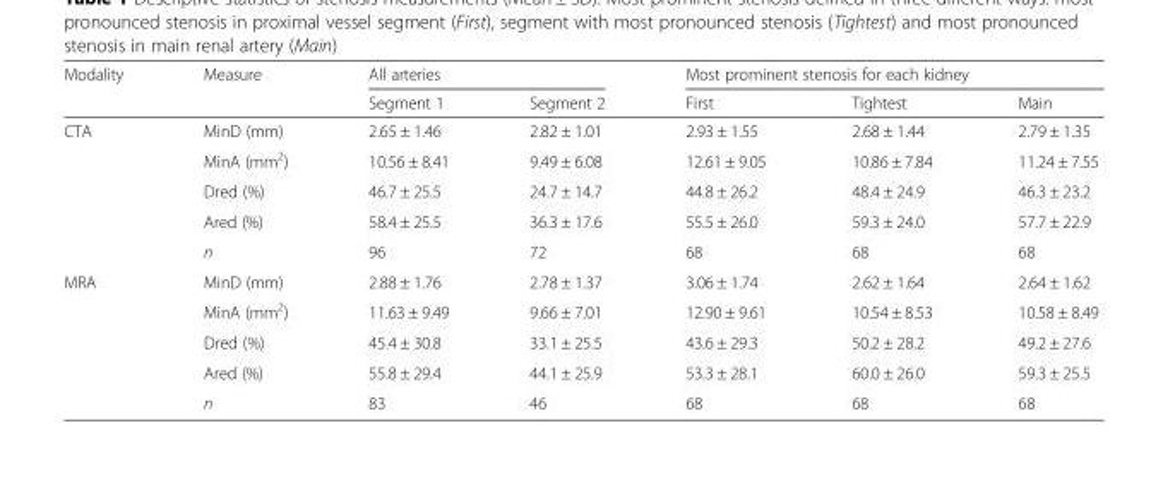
<table><thead><tr><td rowspan="2">Modality</td><td rowspan="2">Measure</td><td colspan="2">All arteries</td><td colspan="3">Most prominent stenosis for each kidney</td></tr><tr><td>Segment 1</td><td>Segment 2</td><td>First</td><td>Tightest</td><td>Main</td></tr></thead><tbody><tr><td rowspan="5">CTA</td><td>MinD (mm)</td><td>2.65 ± 1.46</td><td>2.82 ± 1.01</td><td>2.93 ± 1.55</td><td>2.68 ± 1.44</td><td>2.79 ± 1.35</td></tr><tr><td>MinA (mm<sup>2</sup>)</td><td>10.56 ± 8.41</td><td>9.49 ± 6.08</td><td>12.61 ± 9.05</td><td>10.86 ± 7.84</td><td>11.24 ± 7.55</td></tr><tr><td>Dred (%)</td><td>46.7 ± 25.5</td><td>24.7 ± 14.7</td><td>44.8 ± 26.2</td><td>48.4 ± 24.9</td><td>46.3 ± 23.2</td></tr><tr><td>Ared (%)</td><td>58.4 ± 25.5</td><td>36.3 ± 17.6</td><td>55.5 ± 26.0</td><td>59.3 ± 24.0</td><td>57.7 ± 22.9</td></tr><tr><td>n</td><td>96</td><td>72</td><td>68</td><td>68</td><td>68</td></tr><tr><td rowspan="5">MRA</td><td>MinD (mm)</td><td>2.88 ± 1.76</td><td>2.78 ± 1.37</td><td>3.06 ± 1.74</td><td>2.62 ± 1.64</td><td>2.64 ± 1.62</td></tr><tr><td>MinA (mm<sup>2</sup>)</td><td>11.63 ± 9.49</td><td>9.66 ± 7.01</td><td>12.90 ± 9.61</td><td>10.54 ± 8.53</td><td>10.58 ± 8.49</td></tr><tr><td>Dred (%)</td><td>45.4 ± 30.8</td><td>33.1 ± 25.5</td><td>43.6 ± 29.3</td><td>50.2 ± 28.2</td><td>49.2 ± 27.6</td></tr><tr><td>Ared (%)</td><td>55.8 ± 29.4</td><td>44.1 ± 25.9</td><td>53.3 ± 28.1</td><td>60.0 ± 26.0</td><td>59.3 ± 25.5</td></tr><tr><td>n</td><td>83</td><td>46</td><td>68</td><td>68</td><td>68</td></tr></tbody></table>